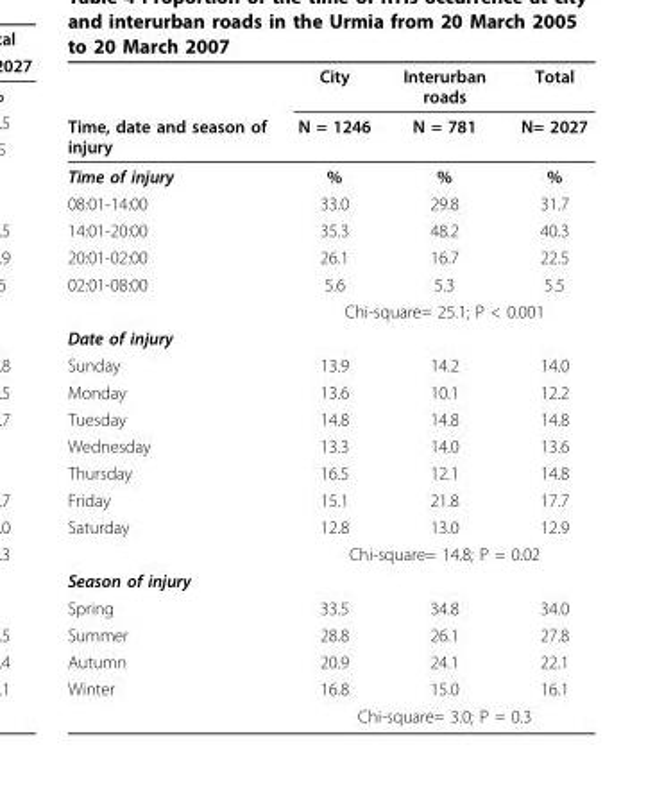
<table><thead><tr><td rowspan="2">Time, date and season of injury</td><td rowspan="2">City N = 1246</td><td rowspan="2">Interurban roads N = 781</td><td rowspan="2">Total N= 2027</td></tr><tr></tr></thead><tbody><tr><td>Time of injury</td><td>%</td><td>%</td><td>%</td></tr><tr><td>08:01-14:00</td><td>33.0</td><td>29.8</td><td>31.7</td></tr><tr><td>14:01-20:00</td><td>35.3</td><td>48.2</td><td>40.3</td></tr><tr><td>20:01-02:00</td><td>26.1</td><td>16.7</td><td>22.5</td></tr><tr><td rowspan="2">02:01-08:00</td><td>5.6</td><td>5.3</td><td>5.5</td></tr><tr><td colspan="3">Chi-square= 25.1; P &lt; 0.001</td></tr><tr><td colspan="4">Date of injury</td></tr><tr><td>Sunday</td><td>13.9</td><td>14.2</td><td>14.0</td></tr><tr><td>Monday</td><td>13.6</td><td>10.1</td><td>12.2</td></tr><tr><td>Tuesday</td><td>14.8</td><td>14.8</td><td>14.8</td></tr><tr><td>Wednesday</td><td>13.3</td><td>14.0</td><td>13.6</td></tr><tr><td>Thursday</td><td>16.5</td><td>12.1</td><td>14.8</td></tr><tr><td>Friday</td><td>15.1</td><td>21.8</td><td>17.7</td></tr><tr><td rowspan="2">Saturday</td><td>12.8</td><td>13.0</td><td>12.9</td></tr><tr><td colspan="3">Chi-square= 14.8; P = 0.02</td></tr><tr><td colspan="4">Season of injury</td></tr><tr><td>Spring</td><td>33.5</td><td>34.8</td><td>34.0</td></tr><tr><td>Summer</td><td>28.8</td><td>26.1</td><td>27.8</td></tr><tr><td>Autumn</td><td>20.9</td><td>24.1</td><td>22.1</td></tr><tr><td rowspan="2">Winter</td><td>16.8</td><td>15.0</td><td>16.1</td></tr><tr><td colspan="3">Chi-square= 3.0; P = 0.3</td></tr></tbody></table>